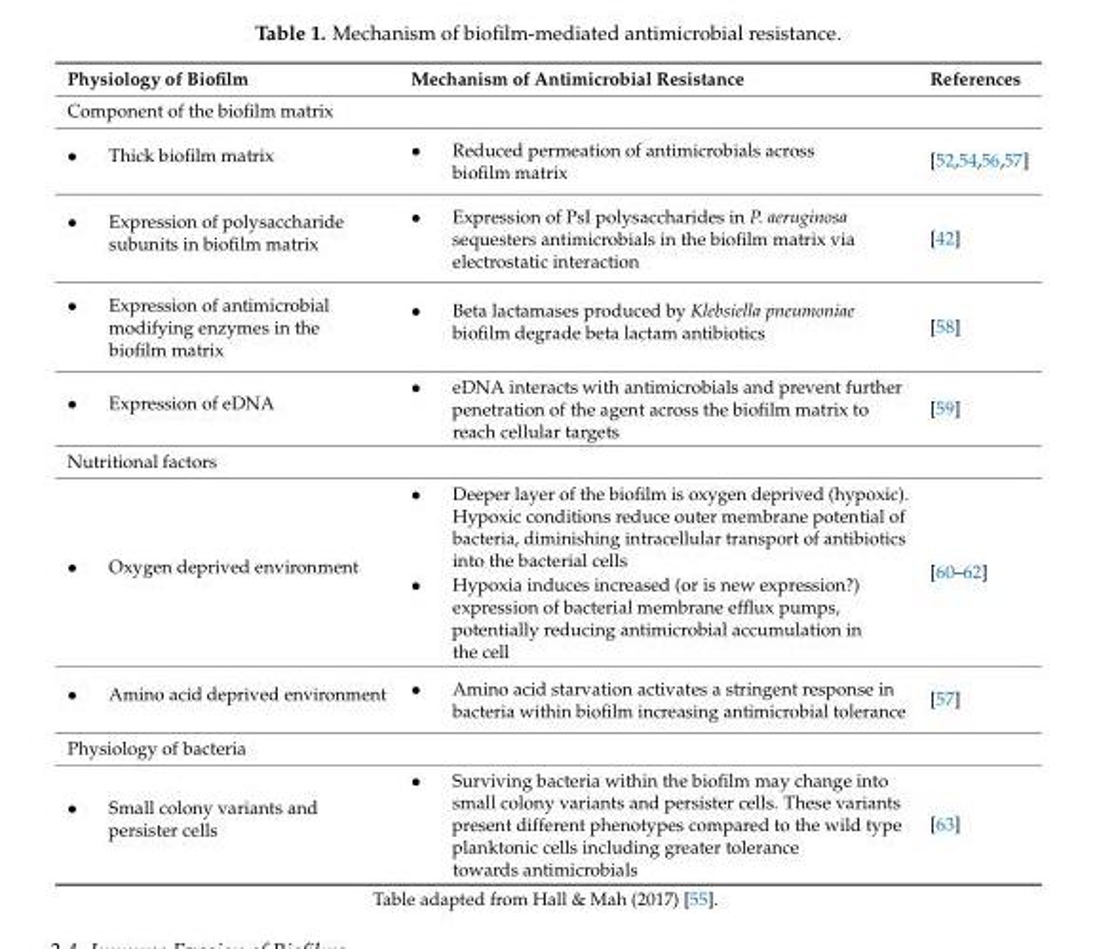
<table><thead><tr><td>Physiology of Biofilm</td><td>Mechanism of Antimicrobial Resistance</td><td>References</td></tr></thead><tbody><tr><td colspan="3">Component of the biofilm matrix</td></tr><tr><td>• Thick biofilm matrix</td><td>• Reduced permeation of antimicrobials across biofilm matrix</td><td>[52,54,56,57]</td></tr><tr><td>• Expression of polysaccharide subunits in biofilm matrix</td><td>• Expression of PsI polysaccharides in P. aeruginosa sequesters antimicrobials in the biofilm matrix via electrostatic interaction</td><td>[42]</td></tr><tr><td>• Expression of antimicrobial modifying enzymes in the biofilm matrix</td><td>• Beta lactamases produced by Klebsiella pneumoniae biofilm degrade beta lactam antibiotics</td><td>[58]</td></tr><tr><td>• Expression of eDNA</td><td>• eDNA interacts with antimicrobials and prevent further penetration of the agent across the biofilm matrix to reach cellular targets</td><td>[59]</td></tr><tr><td colspan="3">Nutritional factors</td></tr><tr><td>• Oxygen deprived environment</td><td>• Deeper layer of the biofilm is oxygen deprived (hypoxic). Hypoxic conditions reduce outer membrane potential of bacteria, diminishing intracellular transport of antibiotics into the bacterial cells • Hypoxia induces increased (or is new expression?) expression of bacterial membrane efflux pumps, potentially reducing antimicrobial accumulation in the cell</td><td>[60–62]</td></tr><tr><td>• Amino acid deprived environment</td><td>• Amino acid starvation activates a stringent response in bacteria within biofilm increasing antimicrobial tolerance</td><td>[57]</td></tr><tr><td colspan="3">Physiology of bacteria</td></tr><tr><td>• Small colony variants and persister cells</td><td>• Surviving bacteria within the biofilm may change into small colony variants and persister cells. These variants present different phenotypes compared to the wild type planktonic cells including greater tolerance towards antimicrobials</td><td>[63]</td></tr></tbody></table>